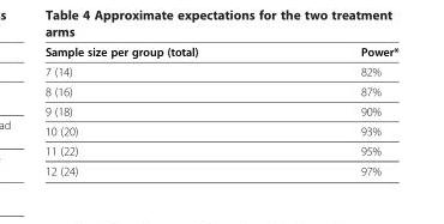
<table><thead><tr><td>Sample size per group (total)</td><td>Power*</td></tr></thead><tbody><tr><td>7 (14)</td><td>82%</td></tr><tr><td>8 (16)</td><td>87%</td></tr><tr><td>9 (18)</td><td>90%</td></tr><tr><td>10 (20)</td><td>93%</td></tr><tr><td>11 (22)</td><td>95%</td></tr><tr><td>12 (24)</td><td>97%</td></tr></tbody></table>